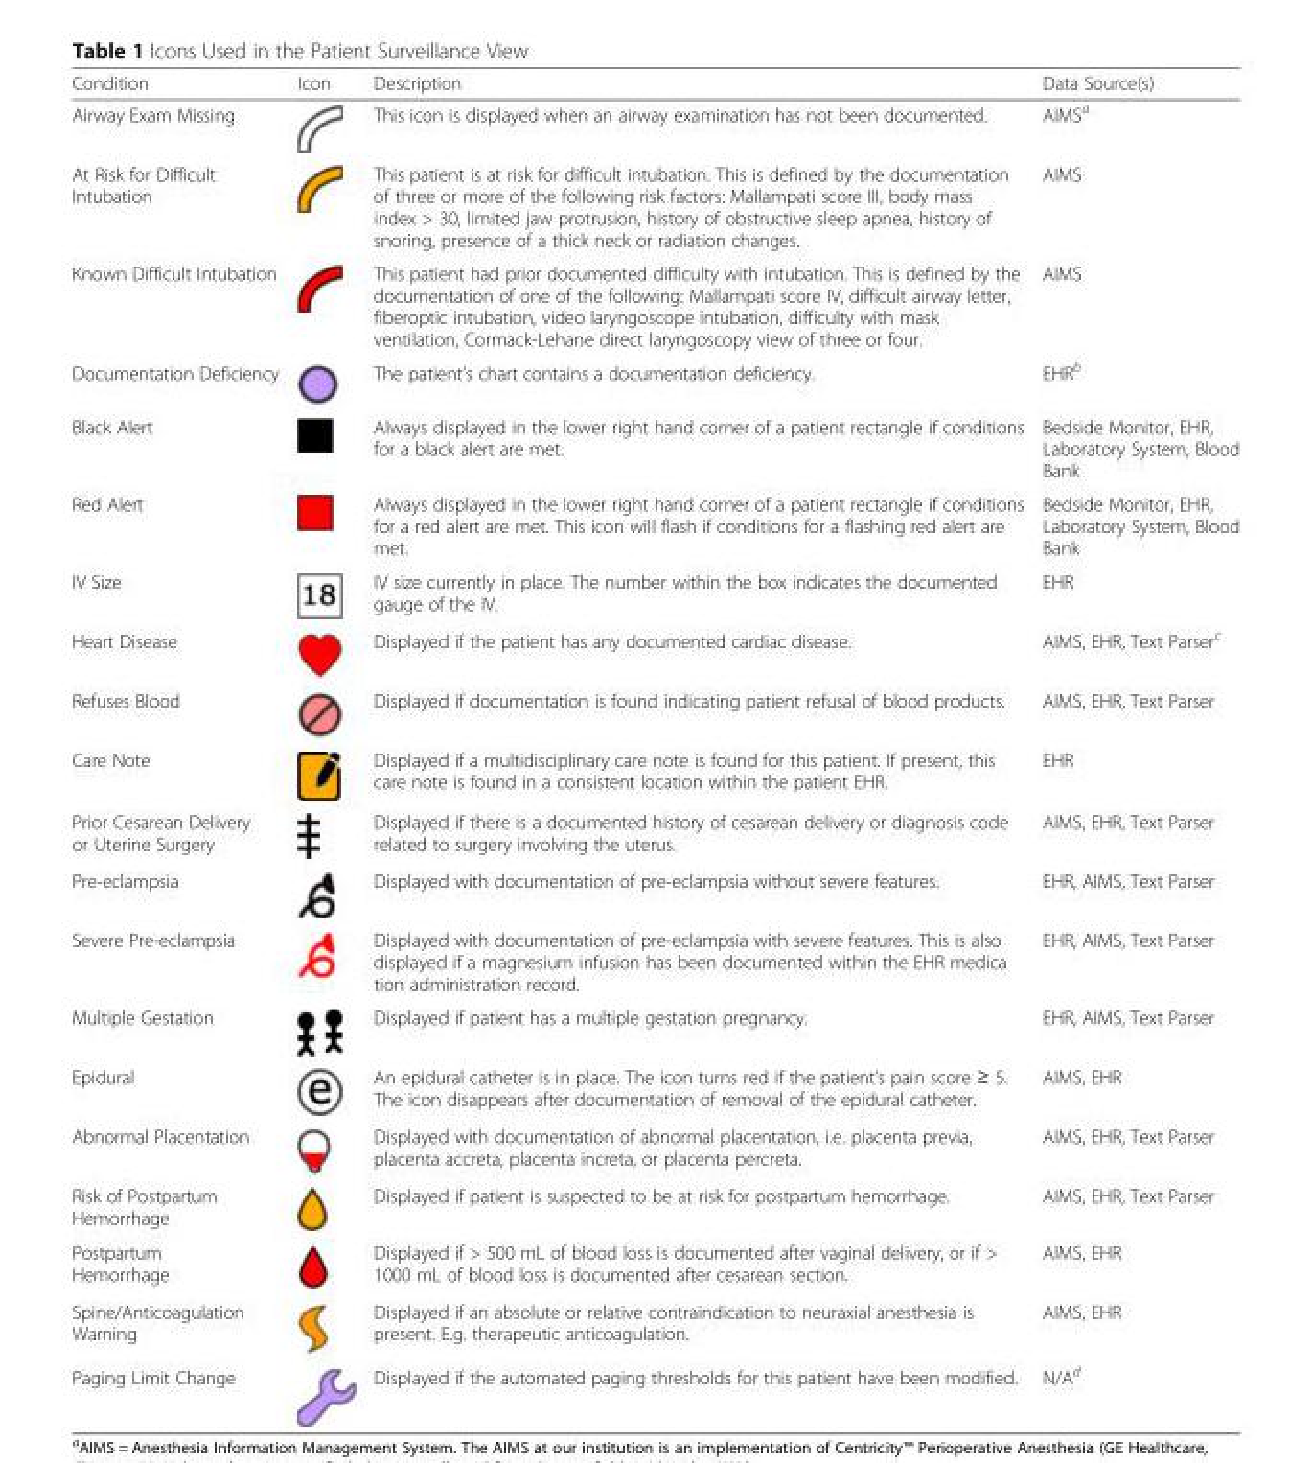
<table><thead><tr><td>Condition</td><td>Icon</td><td>Description</td><td>Data Source(s)</td></tr></thead><tbody><tr><td>Airway Exam Missing</td><td></td><td>This icon is displayed when an airway examination has not been documented.</td><td>AIMS<sup>a</sup></td></tr><tr><td>At Risk for Difficult Intubation</td><td></td><td>This patient is at risk for difficult intubation. This is defined by the documentation of three or more of the following risk factors: Mallampati score III, body mass index &gt; 30, limited jaw protrusion, history of obstructive sleep apnea, history of snoring, presence of a thick neck or radiation changes.</td><td>AIMS</td></tr><tr><td>Known Difficult Intubation</td><td></td><td>This patient had prior documented difficulty with intubation. This is defined by the documentation of one of the following: Mallampati score IV, difficult airway letter, fiberoptic intubation, video laryngoscope intubation, difficulty with mask ventilation, Cormack-Lehane direct laryngoscopy view of three or four.</td><td>AIMS</td></tr><tr><td>Documentation Deficiency</td><td></td><td>The patient’s chart contains a documentation deficiency.</td><td>EHR<sup>b</sup></td></tr><tr><td>Black Alert</td><td></td><td>Always displayed in the lower right hand corner of a patient rectangle if conditions for a black alert are met.</td><td>Bedside Monitor, EHR, Laboratory System, Blood Bank</td></tr><tr><td>Red Alert</td><td></td><td>Always displayed in the lower right hand corner of a patient rectangle if conditions for a red alert are met. This icon will flash if conditions for a flashing red alert are met.</td><td>Bedside Monitor, EHR, Laboratory System, Blood Bank</td></tr><tr><td>IV Size</td><td></td><td>IV size currently in place. The number within the box indicates the documented gauge of the IV.</td><td>EHR</td></tr><tr><td>Heart Disease</td><td></td><td>Displayed if the patient has any documented cardiac disease.</td><td>AIMS, EHR, Text Parser<sup>c</sup></td></tr><tr><td>Refuses Blood</td><td></td><td>Displayed if documentation is found indicating patient refusal of blood products.</td><td>AIMS, EHR, Text Parser</td></tr><tr><td>Care Note</td><td></td><td>Displayed if a multidisciplinary care note is found for this patient. If present, this care note is found in a consistent location within the patient EHR.</td><td>EHR</td></tr><tr><td>Prior Cesarean Delivery or Uterine Surgery</td><td></td><td>Displayed if there is a documented history of cesarean delivery or diagnosis code related to surgery involving the uterus.</td><td>AIMS, EHR, Text Parser</td></tr><tr><td>Pre-eclampsia</td><td></td><td>Displayed with documentation of pre-eclampsia without severe features.</td><td>EHR, AIMS, Text Parser</td></tr><tr><td>Severe Pre-eclampsia</td><td></td><td>Displayed with documentation of pre-eclampsia with severe features. This is also displayed if a magnesium infusion has been documented within the EHR medica tion administration record.</td><td>EHR, AIMS, Text Parser</td></tr><tr><td>Multiple Gestation</td><td></td><td>Displayed if patient has a multiple gestation pregnancy.</td><td>EHR, AIMS, Text Parser</td></tr><tr><td>Epidural</td><td></td><td>An epidural catheter is in place. The icon turns red if the patient’s pain score ≥ 5. The icon disappears after documentation of removal of the epidural catheter.</td><td>AIMS, EHR</td></tr><tr><td>Abnormal Placentation</td><td></td><td>Displayed with documentation of abnormal placentation, i.e. placenta previa, placenta accreta, placenta increta, or placenta percreta.</td><td>AIMS, EHR, Text Parser</td></tr><tr><td>Risk of Postpartum Hemorrhage</td><td></td><td>Displayed if patient is suspected to be at risk for postpartum hemorrhage.</td><td>AIMS, EHR, Text Parser</td></tr><tr><td>Postpartum Hemorrhage</td><td></td><td>Displayed if &gt; 500 mL of blood loss is documented after vaginal delivery, or if &gt; 1000 mL of blood loss is documented after cesarean section.</td><td>AIMS, EHR</td></tr><tr><td>Spine/Anticoagulation Warning</td><td></td><td>Displayed if an absolute or relative contraindication to neuraxial anesthesia is present. E.g. therapeutic anticoagulation.</td><td>AIMS, EHR</td></tr><tr><td>Paging Limit Change</td><td></td><td>Displayed if the automated paging thresholds for this patient have been modified.</td><td>N/A<sup>d</sup></td></tr></tbody></table>